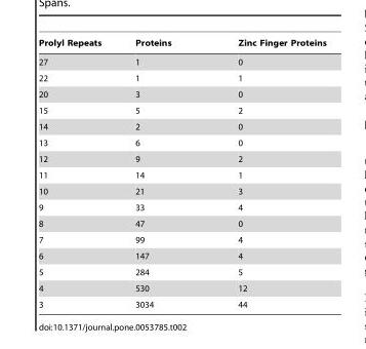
<table><thead><tr><td>Prolyl Repeats</td><td>Proteins</td><td>Zinc Finger Proteins</td></tr></thead><tbody><tr><td>27</td><td>1</td><td>0</td></tr><tr><td>22</td><td>1</td><td>1</td></tr><tr><td>20</td><td>3</td><td>0</td></tr><tr><td>15</td><td>5</td><td>2</td></tr><tr><td>14</td><td>2</td><td>0</td></tr><tr><td>13</td><td>6</td><td>0</td></tr><tr><td>12</td><td>9</td><td>2</td></tr><tr><td>11</td><td>14</td><td>1</td></tr><tr><td>10</td><td>21</td><td>3</td></tr><tr><td>9</td><td>33</td><td>4</td></tr><tr><td>8</td><td>47</td><td>0</td></tr><tr><td>7</td><td>99</td><td>4</td></tr><tr><td>6</td><td>147</td><td>4</td></tr><tr><td>5</td><td>284</td><td>5</td></tr><tr><td>4</td><td>530</td><td>12</td></tr><tr><td>3</td><td>3034</td><td>44</td></tr></tbody></table>